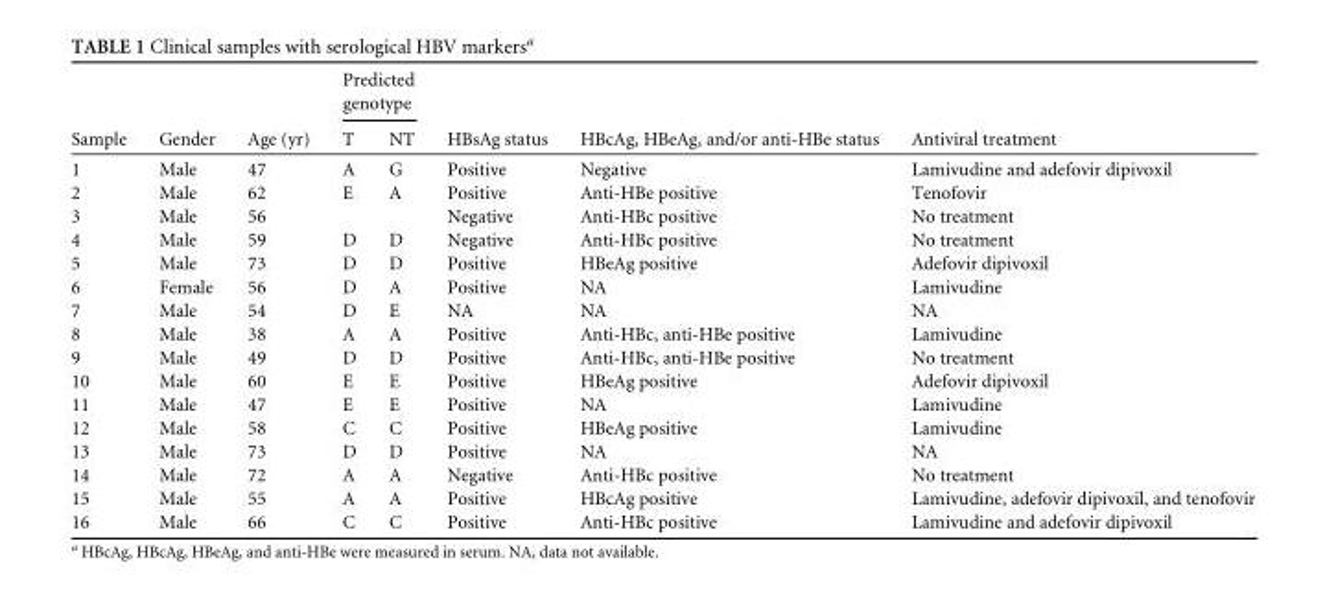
<table><thead><tr><td rowspan="2">Sample</td><td rowspan="2">Gender</td><td rowspan="2">Age (yr)</td><td colspan="2">Predicted genotype</td><td rowspan="2">HBsAg status</td><td rowspan="2">HBcAg, HBeAg, and/or anti-HBe status</td><td rowspan="2">Antiviral treatment</td></tr><tr><td>T</td><td>NT</td></tr></thead><tbody><tr><td>1</td><td>Male</td><td>47</td><td>A</td><td>G</td><td>Positive</td><td>Negative</td><td>Lamivudine and adefovir dipivoxil</td></tr><tr><td>2</td><td>Male</td><td>62</td><td>E</td><td>A</td><td>Positive</td><td>Anti-HBe positive</td><td>Tenofovir</td></tr><tr><td>3</td><td>Male</td><td>56</td><td></td><td></td><td>Negative</td><td>Anti-HBc positive</td><td>No treatment</td></tr><tr><td>4</td><td>Male</td><td>59</td><td>D</td><td>D</td><td>Negative</td><td>Anti-HBc positive</td><td>No treatment</td></tr><tr><td>5</td><td>Male</td><td>73</td><td>D</td><td>D</td><td>Positive</td><td>HBeAg positive</td><td>Adefovir dipivoxil</td></tr><tr><td>6</td><td>Female</td><td>56</td><td>D</td><td>A</td><td>Positive</td><td>NA</td><td>Lamivudine</td></tr><tr><td>7</td><td>Male</td><td>54</td><td>D</td><td>E</td><td>NA</td><td>NA</td><td>NA</td></tr><tr><td>8</td><td>Male</td><td>38</td><td>A</td><td>A</td><td>Positive</td><td>Anti-HBc, anti-HBe positive</td><td>Lamivudine</td></tr><tr><td>9</td><td>Male</td><td>49</td><td>D</td><td>D</td><td>Positive</td><td>Anti-HBc, anti-HBe positive</td><td>No treatment</td></tr><tr><td>10</td><td>Male</td><td>60</td><td>E</td><td>E</td><td>Positive</td><td>HBeAg positive</td><td>Adefovir dipivoxil</td></tr><tr><td>11</td><td>Male</td><td>47</td><td>E</td><td>E</td><td>Positive</td><td>NA</td><td>Lamivudine</td></tr><tr><td>12</td><td>Male</td><td>58</td><td>C</td><td>C</td><td>Positive</td><td>HBeAg positive</td><td>Lamivudine</td></tr><tr><td>13</td><td>Male</td><td>73</td><td>D</td><td>D</td><td>Positive</td><td>NA</td><td>NA</td></tr><tr><td>14</td><td>Male</td><td>72</td><td>A</td><td>A</td><td>Negative</td><td>Anti-HBc positive</td><td>No treatment</td></tr><tr><td>15</td><td>Male</td><td>55</td><td>A</td><td>A</td><td>Positive</td><td>HBcAg positive</td><td>Lamivudine, adefovir dipivoxil, and tenofovir</td></tr><tr><td>16</td><td>Male</td><td>66</td><td>C</td><td>C</td><td>Positive</td><td>Anti-HBc positive</td><td>Lamivudine and adefovir dipivoxil</td></tr></tbody></table>